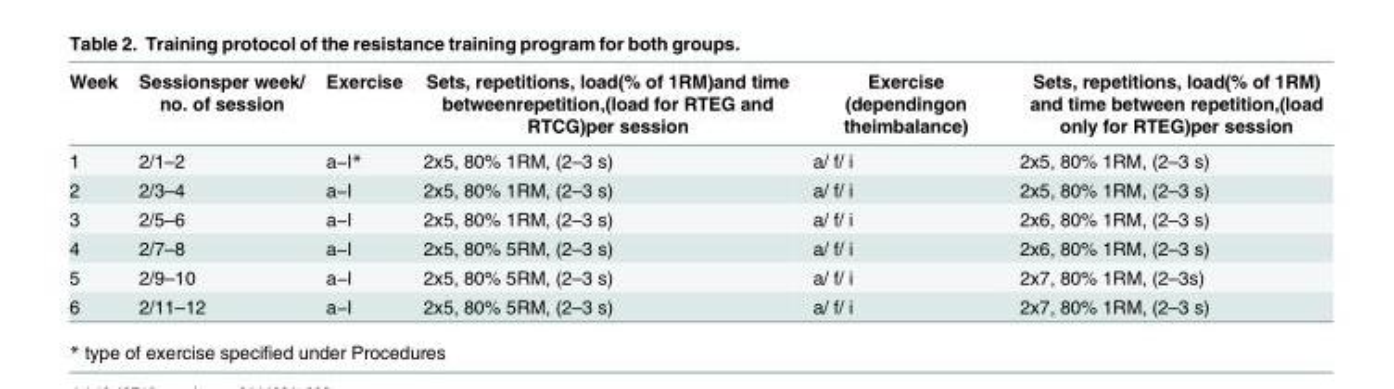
<table><thead><tr><td>Week</td><td>Sessionsper week/ no. of session</td><td>Exercise</td><td>Sets, repetitions, load(% of 1RM)and time betweenrepetition,(load for RTEG and RTCG)per session</td><td>Exercise (dependingon theimbalance)</td><td>Sets, repetitions, load(% of 1RM) and time between repetition,(load only for RTEG)per session</td></tr></thead><tbody><tr><td>1</td><td>2/1–2</td><td>a−l*</td><td>2x5, 80% 1RM, (2–3 s)</td><td>a/ f/ i</td><td>2x5, 80% 1RM, (2–3 s)</td></tr><tr><td>2</td><td>2/3–4</td><td>a−l</td><td>2x5, 80% 1RM, (2–3 s)</td><td>a/ f/ i</td><td>2x5, 80% 1RM, (2–3 s)</td></tr><tr><td>3</td><td>2/5–6</td><td>a−l</td><td>2x5, 80% 1RM, (2–3 s)</td><td>a/ f/ i</td><td>2x6, 80% 1RM, (2–3 s)</td></tr><tr><td>4</td><td>2/7–8</td><td>a−l</td><td>2x5, 80% 5RM, (2–3 s)</td><td>a/ f/ i</td><td>2x6, 80% 1RM, (2–3 s)</td></tr><tr><td>5</td><td>2/9–10</td><td>a−l</td><td>2x5, 80% 5RM, (2–3 s)</td><td>a/ f/ i</td><td>2x7, 80% 1RM, (2–3s)</td></tr><tr><td>6</td><td>2/11–12</td><td>a−l</td><td>2x5, 80% 5RM, (2–3 s)</td><td>a/ f/ i</td><td>2x7, 80% 1RM, (2–3 s)</td></tr></tbody></table>